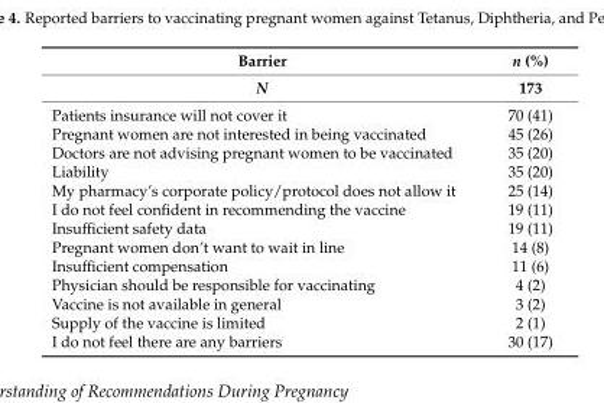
<table><thead><tr><td rowspan="2">Barrier N</td><td rowspan="2">n (%) 173</td></tr><tr></tr></thead><tbody><tr><td>Patients insurance will not cover it</td><td>70 (41)</td></tr><tr><td>Pregnant women are not interested in being vaccinated</td><td>45 (26)</td></tr><tr><td>Doctors are not advising pregnant women to be vaccinated</td><td>35 (20)</td></tr><tr><td>Liability</td><td>35 (20)</td></tr><tr><td>My pharmacy’s corporate policy/protocol does not allow it</td><td>25 (14)</td></tr><tr><td>I do not feel confident in recommending the vaccine</td><td>19 (11)</td></tr><tr><td>Insufficient safety data</td><td>19 (11)</td></tr><tr><td>Pregnant women don’t want to wait in line</td><td>14 (8)</td></tr><tr><td>Insufficient compensation</td><td>11 (6)</td></tr><tr><td>Physician should be responsible for vaccinating</td><td>4 (2)</td></tr><tr><td>Vaccine is not available in general</td><td>3 (2)</td></tr><tr><td>Supply of the vaccine is limited</td><td>2 (1)</td></tr><tr><td>I do not feel there are any barriers</td><td>30 (17)</td></tr></tbody></table>